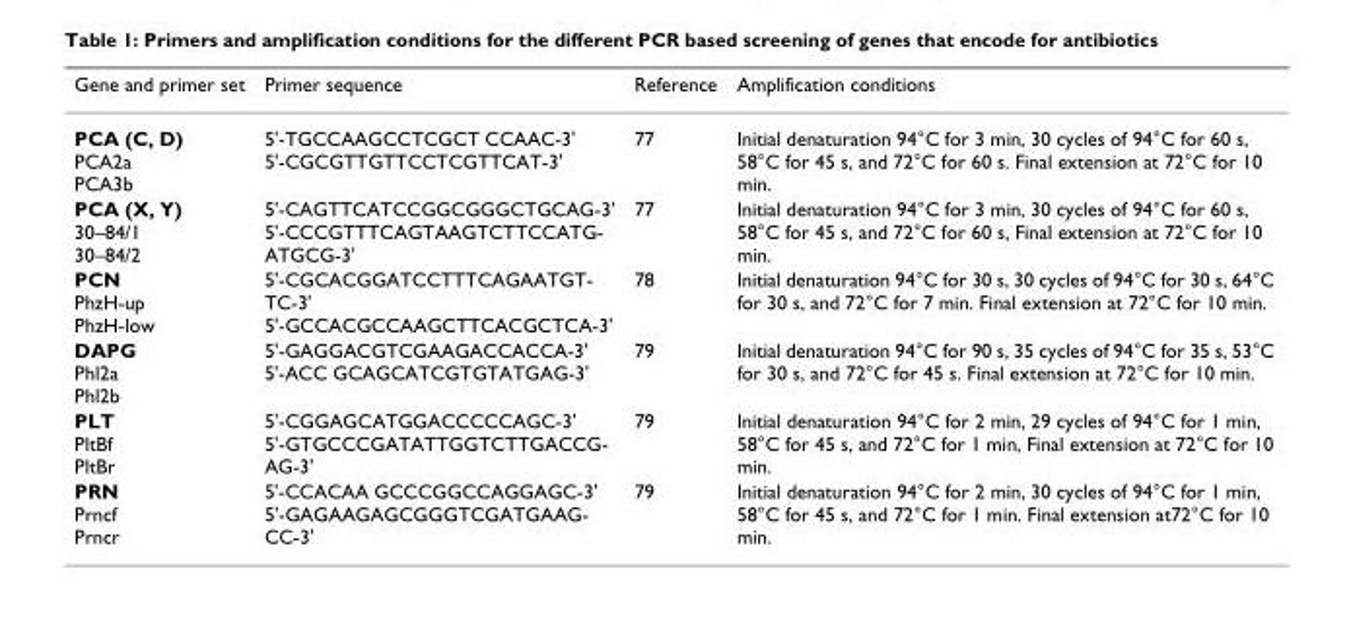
<table><thead><tr><td>Gene and primer set</td><td>Primer sequence</td><td>Reference</td><td>Amplification conditions</td></tr></thead><tbody><tr><td>PCA (C, D) PCA2a PCA3b</td><td>5&#x27;-TGCCAAGCCTCGCT CCAAC-3&#x27; 5&#x27;-CGCGTTGTTCCTCGTTCAT-3&#x27;</td><td>77</td><td>Initial denaturation 94°C for 3 min, 30 cycles of 94°C for 60 s, 58°C for 45 s, and 72°C for 60 s. Final extension at 72°C for 10 min.</td></tr><tr><td>PCA (X, Y) 30–84/1 30–84/2</td><td>5&#x27;-CAGTTCATCCGGCGGGCTGCAG-3&#x27; 5&#x27;-CCCGTTTCAGTAAGTCTTCCATG- ATGCG-3&#x27;</td><td>77</td><td>Initial denaturation 94°C for 3 min, 30 cycles of 94°C for 60 s, 58°C for 45 s, and 72°C for 60 s, Final extension at 72°C for 10 min.</td></tr><tr><td>PCN PhzH-up PhzH-low</td><td>5&#x27;-CGCACGGATCCTTTCAGAATGT- TC-3&#x27; 5&#x27;-GCCACGCCAAGCTTCACGCTCA-3&#x27;</td><td>78</td><td>Initial denaturation 94°C for 30 s, 30 cycles of 94°C for 30 s, 64°C for 30 s, and 72°C for 7 min. Final extension at 72°C for 10 min.</td></tr><tr><td>DAPG Phl2a Phl2b</td><td>5&#x27;-GAGGACGTCGAAGACCACCA-3&#x27; 5&#x27;-ACC GCAGCATCGTGTATGAG-3&#x27;</td><td>79</td><td>Initial denaturation 94°C for 90 s, 35 cycles of 94°C for 35 s, 53°C for 30 s, and 72°C for 45 s. Final extension at 72°C for 10 min.</td></tr><tr><td>PLT PltBf PltBr</td><td>5&#x27;-CGGAGCATGGACCCCCAGC-3&#x27; 5&#x27;-GTGCCCGATATTGGTCTTGACCG- AG-3&#x27;</td><td>79</td><td>Initial denaturation 94°C for 2 min, 29 cycles of 94°C for 1 min, 58°C for 45 s, and 72°C for 1 min, Final extension at 72°C for 10 min.</td></tr><tr><td>PRN Prncf Prncr</td><td>5&#x27;-CCACAA GCCCGGCCAGGAGC-3&#x27; 5&#x27;-GAGAAGAGCGGGTCGATGAAG- CC-3&#x27;</td><td>79</td><td>Initial denaturation 94°C for 2 min, 30 cycles of 94°C for 1 min, 58°C for 45 s, and 72°C for 1 min. Final extension at72°C for 10 min.</td></tr></tbody></table>